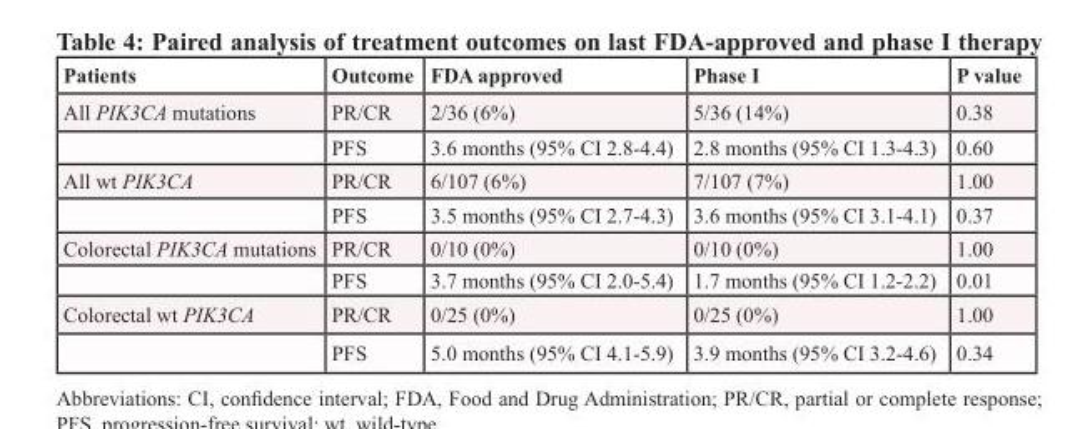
<table><thead><tr><td>Patients</td><td>Outcome</td><td>FDA approved</td><td>Phase I</td><td>P value</td></tr></thead><tbody><tr><td rowspan="2">All PIK3CA mutations</td><td>PR/CR</td><td>2/36 (6%)</td><td>5/36 (14%)</td><td>0.38</td></tr><tr><td>PFS</td><td>3.6 months (95% CI 2.8-4.4)</td><td>2.8 months (95% CI 1.3-4.3)</td><td>0.60</td></tr><tr><td rowspan="2">All wt PIK3CA</td><td>PR/CR</td><td>6/107 (6%)</td><td>7/107 (7%)</td><td>1.00</td></tr><tr><td>PFS</td><td>3.5 months (95% CI 2.7-4.3)</td><td>3.6 months (95% CI 3.1-4.1)</td><td>0.37</td></tr><tr><td rowspan="2">Colorectal PIK3CA mutations</td><td>PR/CR</td><td>0/10 (0%)</td><td>0/10 (0%)</td><td>1.00</td></tr><tr><td>PFS</td><td>3.7 months (95% CI 2.0-5.4)</td><td>1.7 months (95% CI 1.2-2.2)</td><td>0.01</td></tr><tr><td rowspan="2">Colorectal wt PIK3CA</td><td>PR/CR</td><td>0/25 (0%)</td><td>0/25 (0%)</td><td>1.00</td></tr><tr><td>PFS</td><td>5.0 months (95% CI 4.1-5.9)</td><td>3.9 months (95% CI 3.2-4.6)</td><td>0.34</td></tr></tbody></table>